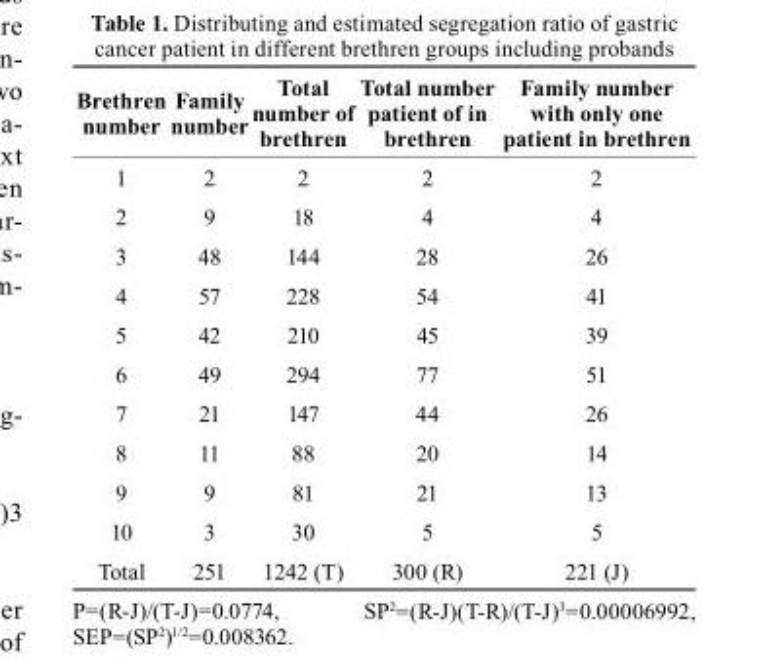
<table><thead><tr><td>brethren number</td><td>Family number</td><td>total number of brethren</td><td>total number patient of in brethren</td><td>Family number with only one patient in brethren</td></tr></thead><tbody><tr><td>1</td><td>2</td><td>2</td><td>2</td><td>2</td></tr><tr><td>2</td><td>9</td><td>18</td><td>4</td><td>4</td></tr><tr><td>3</td><td>48</td><td>144</td><td>28</td><td>26</td></tr><tr><td>4</td><td>57</td><td>228</td><td>54</td><td>41</td></tr><tr><td>5</td><td>42</td><td>210</td><td>45</td><td>39</td></tr><tr><td>6</td><td>49</td><td>294</td><td>77</td><td>51</td></tr><tr><td>7</td><td>21</td><td>147</td><td>44</td><td>26</td></tr><tr><td>8</td><td>11</td><td>88</td><td>20</td><td>14</td></tr><tr><td>9</td><td>9</td><td>81</td><td>21</td><td>13</td></tr><tr><td>10</td><td>3</td><td>30</td><td>5</td><td>5</td></tr><tr><td>Total</td><td>251</td><td>1242 (T)</td><td>300 (R)</td><td>221 (J)</td></tr></tbody></table>